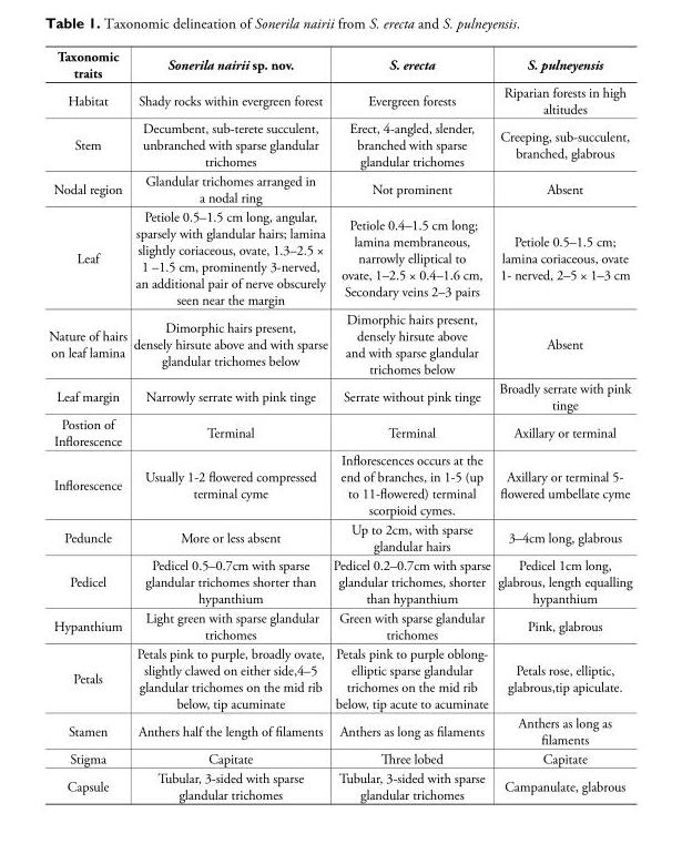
<table><thead><tr><td>Taxonomic traits</td><td>Sonerila nairii sp. nov.</td><td>S. erecta</td><td>S. pulneyensis</td></tr></thead><tbody><tr><td>Habitat</td><td>Shady rocks within evergreen forest</td><td>Evergreen forests</td><td>Riparian forests in high altitudes</td></tr><tr><td>Stem</td><td>Decumbent, sub-terete succulent, unbranched with sparse glandular trichomes</td><td>Erect, 4-angled, slender, branched with sparse glandular trichomes</td><td>Creeping, sub-succulent, branched, glabrous</td></tr><tr><td>Nodal region</td><td>Glandular trichomes arranged in a nodal ring</td><td>Not prominent</td><td>Absent</td></tr><tr><td>Leaf</td><td>Petiole 0.5–1.5 cm long, angular, sparsely with glandular hairs; lamina slightly coriaceous, ovate, 1.3–2.5 × 1 –1.5 cm, prominently 3-nerved, an additional pair of nerve obscurely seen near the margin</td><td>Petiole 0.4–1.5 cm long; lamina membraneous, narrowly elliptical to ovate, 1–2.5 × 0.4–1.6 cm, Secondary veins 2–3 pairs</td><td>Petiole 0.5–1.5 cm; lamina coriaceous, ovate 1- nerved, 2–5 × 1–3 cm</td></tr><tr><td>Nature of hairs on leaf lamina</td><td>Dimorphic hairs present, densely hirsute above and with sparse glandular trichomes below</td><td>Dimorphic hairs present, densely hirsute above and with sparse glandular trichomes below</td><td>Absent</td></tr><tr><td>Leaf margin</td><td>Narrowly serrate with pink tinge</td><td>Serrate without pink tinge</td><td>Broadly serrate with pink tinge</td></tr><tr><td>Postion of Infl orescence</td><td>Terminal</td><td>Terminal</td><td>Axillary or terminal</td></tr><tr><td>Infl orescence</td><td>Usually 1-2 fl owered compressed terminal cyme</td><td>Infl orescences occurs at the end of branches, in 1-5 (up to 11-fl owered) terminal scorpioid cymes.</td><td>Axillary or terminal 5- fl owered umbellate cyme</td></tr><tr><td>Peduncle</td><td>More or less absent</td><td>Up to 2cm, with sparse glandular hairs</td><td>3–4cm long, glabrous</td></tr><tr><td>Pedicel</td><td>Pedicel 0.5–0.7cm with sparse glandular trichomes shorter than hypanthium</td><td>Pedicel 0.2–0.7cm with sparse glandular trichomes, shorter than hypanthium</td><td>Pedicel 1cm long, glabrous, length equalling hypanthium</td></tr><tr><td>Hypanthium</td><td>Light green with sparse glandular trichomes</td><td>Green with sparse glandular trichomes</td><td>Pink, glabrous</td></tr><tr><td>Petals</td><td>Petals pink to purple, broadly ovate, slightly clawed on either side,4–5 glandular trichomes on the mid rib below, tip acuminate</td><td>Petals pink to purple oblong- elliptic sparse glandular trichomes on the mid rib below, tip acute to acuminate</td><td>Petals rose, elliptic, glabrous,tip apiculate.</td></tr><tr><td>Stamen</td><td>Anthers half the length of fi laments</td><td>Anthers as long as fi laments</td><td>Anthers as long as fi laments</td></tr><tr><td>Stigma</td><td>Capitate</td><td>Th ree lobed</td><td>Capitate</td></tr><tr><td>Capsule</td><td>Tubular, 3-sided with sparse glandular trichomes</td><td>Tubular, 3-sided with sparse glandular trichomes</td><td>Campanulate, glabrous</td></tr></tbody></table>